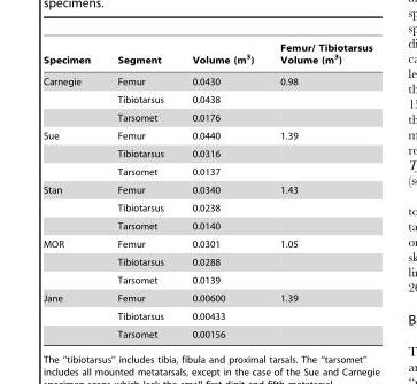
<table><thead><tr><td>Specimen</td><td>Segment</td><td>Volume (m<sup>3</sup>)</td><td>Femur/ Tibiotarsus Volume (m<sup>3</sup>)</td></tr></thead><tbody><tr><td rowspan="3">Carnegie</td><td>Femur</td><td>0.0430</td><td>0.98</td></tr><tr><td>Tibiotarsus</td><td>0.0438</td><td></td></tr><tr><td>Tarsomet</td><td>0.0176</td><td></td></tr><tr><td rowspan="3">Sue</td><td>Femur</td><td>0.0440</td><td>1.39</td></tr><tr><td>Tibiotarsus</td><td>0.0316</td><td></td></tr><tr><td>Tarsomet</td><td>0.0137</td><td></td></tr><tr><td rowspan="3">Stan</td><td>Femur</td><td>0.0340</td><td>1.43</td></tr><tr><td>Tibiotarsus</td><td>0.0238</td><td></td></tr><tr><td>Tarsomet</td><td>0.0140</td><td></td></tr><tr><td rowspan="3">MOR</td><td>Femur</td><td>0.0301</td><td>1.05</td></tr><tr><td>Tibiotarsus</td><td>0.0288</td><td></td></tr><tr><td>Tarsomet</td><td>0.0139</td><td></td></tr><tr><td rowspan="3">Jane</td><td>Femur</td><td>0.00600</td><td>1.39</td></tr><tr><td>Tibiotarsus</td><td>0.00433</td><td></td></tr><tr><td>Tarsomet</td><td>0.00156</td><td></td></tr></tbody></table>